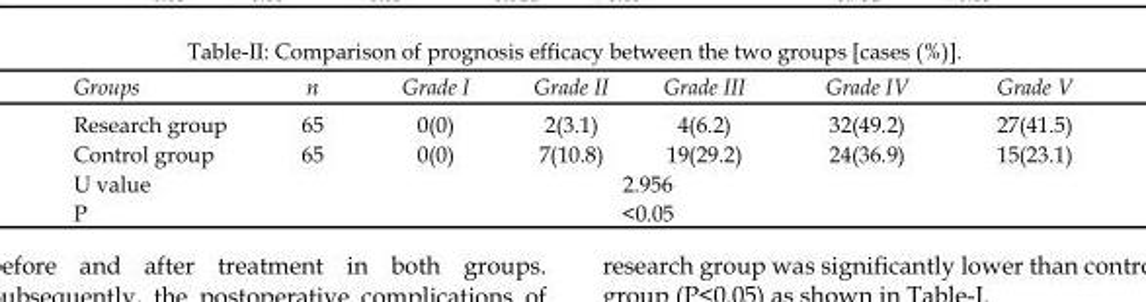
<table><thead><tr><td>Groups</td><td>n</td><td>Grade I</td><td>Grade II</td><td>Grade III</td><td>Grade IV</td><td>Grade V</td></tr></thead><tbody><tr><td>Research group</td><td>65</td><td>0(0)</td><td>2(3.1)</td><td>4(6.2)</td><td>32(49.2)</td><td>27(41.5)</td></tr><tr><td>Control group</td><td>65</td><td>0(0)</td><td>7(10.8)</td><td>19(29.2)</td><td>24(36.9)</td><td>15(23.1)</td></tr><tr><td>U value</td><td colspan="6">2.956</td></tr><tr><td>P</td><td colspan="6">&lt;0.05</td></tr></tbody></table>